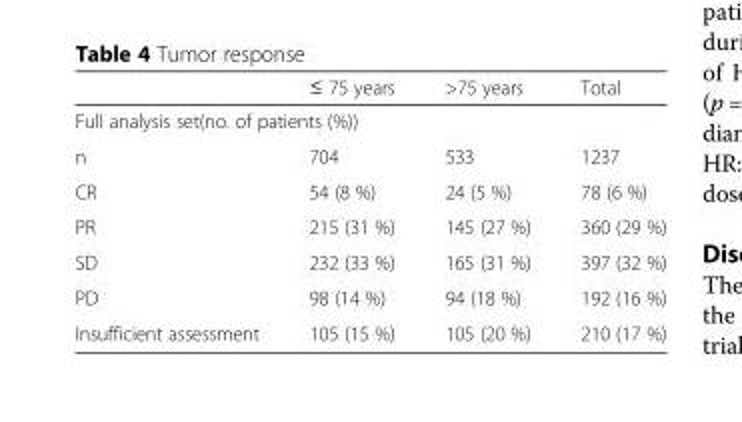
<table><thead><tr><td></td><td>≤ 75 years</td><td>&gt;75 years</td><td>Total</td></tr></thead><tbody><tr><td colspan="4">Full analysis set(no. of patients (%))</td></tr><tr><td>n</td><td>704</td><td>533</td><td>1237</td></tr><tr><td>CR</td><td>54 (8 %)</td><td>24 (5 %)</td><td>78 (6 %)</td></tr><tr><td>PR</td><td>215 (31 %)</td><td>145 (27 %)</td><td>360 (29 %)</td></tr><tr><td>SD</td><td>232 (33 %)</td><td>165 (31 %)</td><td>397 (32 %)</td></tr><tr><td>PD</td><td>98 (14 %)</td><td>94 (18 %)</td><td>192 (16 %)</td></tr><tr><td>Insufficient assessment</td><td>105 (15 %)</td><td>105 (20 %)</td><td>210 (17 %)</td></tr></tbody></table>